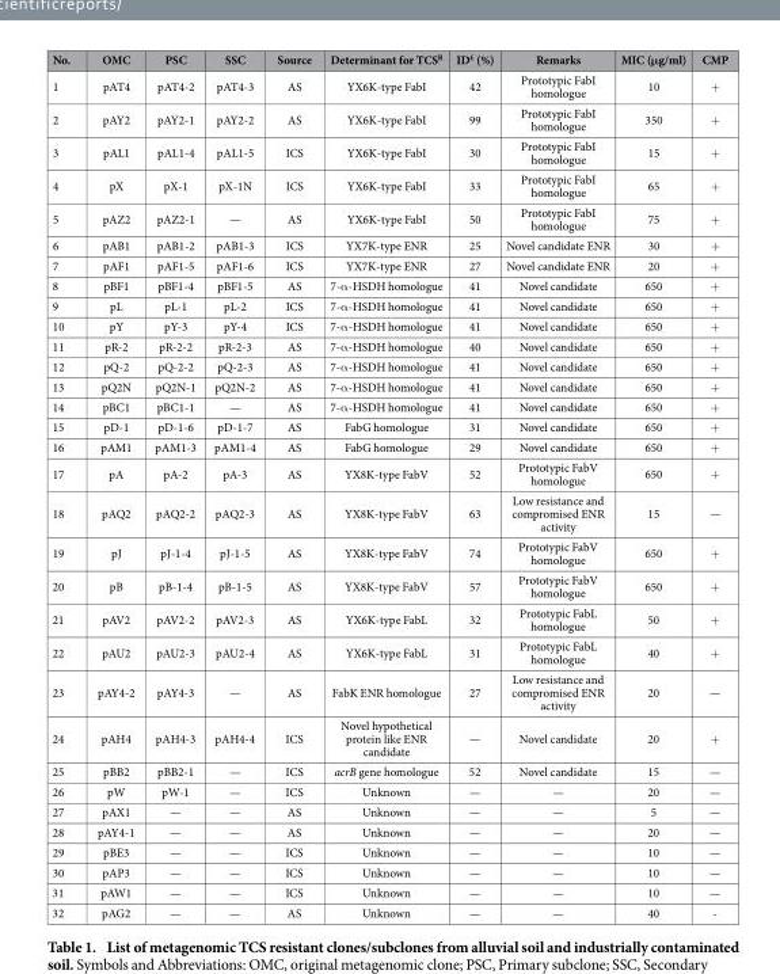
<table><thead><tr><td>No.</td><td>OMC</td><td>PSC</td><td>SSC</td><td>Source</td><td>Determinant for TCS<sup>R</sup></td><td>ID<sup>£</sup> (%)</td><td>Remarks</td><td>MIC (μg/ml)</td><td>CMP</td></tr></thead><tbody><tr><td>1</td><td>pAT4</td><td>pAT4-2</td><td>pAT4-3</td><td>AS</td><td>YX6K-type FabI</td><td>42</td><td>Prototypic FabI homologue</td><td>10</td><td>+</td></tr><tr><td>2</td><td>pAY2</td><td>pAY2-1</td><td>pAY2-2</td><td>AS</td><td>YX6K-type FabI</td><td>99</td><td>Prototypic FabI homologue</td><td>350</td><td>+</td></tr><tr><td>3</td><td>pAL1</td><td>pAL1-4</td><td>pAL1-5</td><td>ICS</td><td>YX6K-type FabI</td><td>30</td><td>Prototypic FabI homologue</td><td>15</td><td>+</td></tr><tr><td>4</td><td>pX</td><td>pX-1</td><td>pX-1N</td><td>ICS</td><td>YX6K-type FabI</td><td>33</td><td>Prototypic FabI homologue</td><td>65</td><td>+</td></tr><tr><td>5</td><td>pAZ2</td><td>pAZ2-1</td><td>—</td><td>AS</td><td>YX6K-type FabI</td><td>50</td><td>Prototypic FabI homologue</td><td>75</td><td>+</td></tr><tr><td>6</td><td>pAB1</td><td>pAB1-2</td><td>pAB1-3</td><td>ICS</td><td>YX7K-type ENR</td><td>25</td><td>Novel candidate ENR</td><td>30</td><td>+</td></tr><tr><td>7</td><td>pAF1</td><td>pAF1-5</td><td>pAF1-6</td><td>ICS</td><td>YX7K-type ENR</td><td>27</td><td>Novel candidate ENR</td><td>20</td><td>+</td></tr><tr><td>8</td><td>pBF1</td><td>pBF1-4</td><td>pBF1-5</td><td>AS</td><td>7-α -HSDH homologue</td><td>41</td><td>Novel candidate</td><td>650</td><td>+</td></tr><tr><td>9</td><td>pL</td><td>pL-1</td><td>pL-2</td><td>ICS</td><td>7-α -HSDH homologue</td><td>41</td><td>Novel candidate</td><td>650</td><td>+</td></tr><tr><td>10</td><td>pY</td><td>pY-3</td><td>pY-4</td><td>ICS</td><td>7-α -HSDH homologue</td><td>41</td><td>Novel candidate</td><td>650</td><td>+</td></tr><tr><td>11</td><td>pR-2</td><td>pR-2-2</td><td>pR-2-3</td><td>AS</td><td>7-α -HSDH homologue</td><td>40</td><td>Novel candidate</td><td>650</td><td>+</td></tr><tr><td>12</td><td>pQ-2</td><td>pQ-2-2</td><td>pQ-2-3</td><td>AS</td><td>7-α -HSDH homologue</td><td>41</td><td>Novel candidate</td><td>650</td><td>+</td></tr><tr><td>13</td><td>pQ2N</td><td>pQ2N-1</td><td>pQ2N-2</td><td>AS</td><td>7-α -HSDH homologue</td><td>41</td><td>Novel candidate</td><td>650</td><td>+</td></tr><tr><td>14</td><td>pBC1</td><td>pBC1-1</td><td>—</td><td>AS</td><td>7-α -HSDH homologue</td><td>41</td><td>Novel candidate</td><td>650</td><td>+</td></tr><tr><td>15</td><td>pD-1</td><td>pD-1-6</td><td>pD-1-7</td><td>AS</td><td>FabG homologue</td><td>31</td><td>Novel candidate</td><td>650</td><td>+</td></tr><tr><td>16</td><td>pAM1</td><td>pAM1-3</td><td>pAM1-4</td><td>AS</td><td>FabG homologue</td><td>29</td><td>Novel candidate</td><td>650</td><td>+</td></tr><tr><td>17</td><td>pA</td><td>pA-2</td><td>pA-3</td><td>AS</td><td>YX8K-type FabV</td><td>52</td><td>Prototypic FabV homologue</td><td>650</td><td>+</td></tr><tr><td>18</td><td>pAQ2</td><td>pAQ2-2</td><td>pAQ2-3</td><td>AS</td><td>YX8K-type FabV</td><td>63</td><td>Low resistance and compromised ENR activity</td><td>15</td><td>—</td></tr><tr><td>19</td><td>pJ</td><td>pJ-1-4</td><td>pJ-1-5</td><td>AS</td><td>YX8K-type FabV</td><td>74</td><td>Prototypic FabV homologue</td><td>650</td><td>+</td></tr><tr><td>20</td><td>pB</td><td>pB-1-4</td><td>pB-1-5</td><td>AS</td><td>YX8K-type FabV</td><td>57</td><td>Prototypic FabV homologue</td><td>650</td><td>+</td></tr><tr><td>21</td><td>pAV2</td><td>pAV2-2</td><td>pAV2-3</td><td>AS</td><td>YX6K-type FabL</td><td>32</td><td>Prototypic FabL homologue</td><td>50</td><td>+</td></tr><tr><td>22</td><td>pAU2</td><td>pAU2-3</td><td>pAU2-4</td><td>AS</td><td>YX6K-type FabL</td><td>31</td><td>Prototypic FabL homologue</td><td>40</td><td>+</td></tr><tr><td>23</td><td>pAY4-2</td><td>pAY4-3</td><td>—</td><td>AS</td><td>FabK ENR homologue</td><td>27</td><td>Low resistance and compromised ENR activity</td><td>20</td><td>—</td></tr><tr><td>24</td><td>pAH4</td><td>pAH4-3</td><td>pAH4-4</td><td>ICS</td><td>Novel hypothetical protein like ENR candidate</td><td>—</td><td>Novel candidate</td><td>20</td><td>+</td></tr><tr><td>25</td><td>pBB2</td><td>pBB2-1</td><td>—</td><td>ICS</td><td>acrB gene homologue</td><td>52</td><td>Novel candidate</td><td>15</td><td>—</td></tr><tr><td>26</td><td>pW</td><td>pW-1</td><td>—</td><td>ICS</td><td>Unknown</td><td>—</td><td>—</td><td>20</td><td>—</td></tr><tr><td>27</td><td>pAX1</td><td>—</td><td>—</td><td>AS</td><td>Unknown</td><td>—</td><td>—</td><td>5</td><td>—</td></tr><tr><td>28</td><td>pAY4-1</td><td>—</td><td>—</td><td>AS</td><td>Unknown</td><td>—</td><td>—</td><td>20</td><td>—</td></tr><tr><td>29</td><td>pBE3</td><td>—</td><td>—</td><td>ICS</td><td>Unknown</td><td>—</td><td>—</td><td>10</td><td>—</td></tr><tr><td>30</td><td>pAP3</td><td>—</td><td>—</td><td>ICS</td><td>Unknown</td><td>—</td><td>—</td><td>10</td><td>—</td></tr><tr><td>31</td><td>pAW1</td><td>—</td><td>—</td><td>ICS</td><td>Unknown</td><td>—</td><td>—</td><td>10</td><td>—</td></tr><tr><td>32</td><td>pAG2</td><td>—</td><td>—</td><td>AS</td><td>Unknown</td><td>—</td><td>—</td><td>40</td><td>-</td></tr></tbody></table>